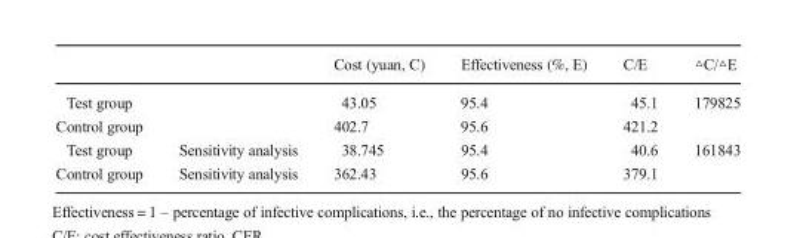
<table><thead><tr><td></td><td></td><td>Cost (yuan, C)</td><td>Effectiveness (%, E)</td><td>C/E</td><td>△C/△E</td></tr></thead><tbody><tr><td>Test group</td><td></td><td>43.05</td><td>95.4</td><td>45.1</td><td>179825</td></tr><tr><td>Control group</td><td></td><td>402.7</td><td>95.6</td><td>421.2</td><td></td></tr><tr><td>Test group</td><td>Sensitivity analysis</td><td>38.745</td><td>95.4</td><td>40.6</td><td>161843</td></tr><tr><td>Control group</td><td>Sensitivity analysis</td><td>362.43</td><td>95.6</td><td>379.1</td><td></td></tr></tbody></table>